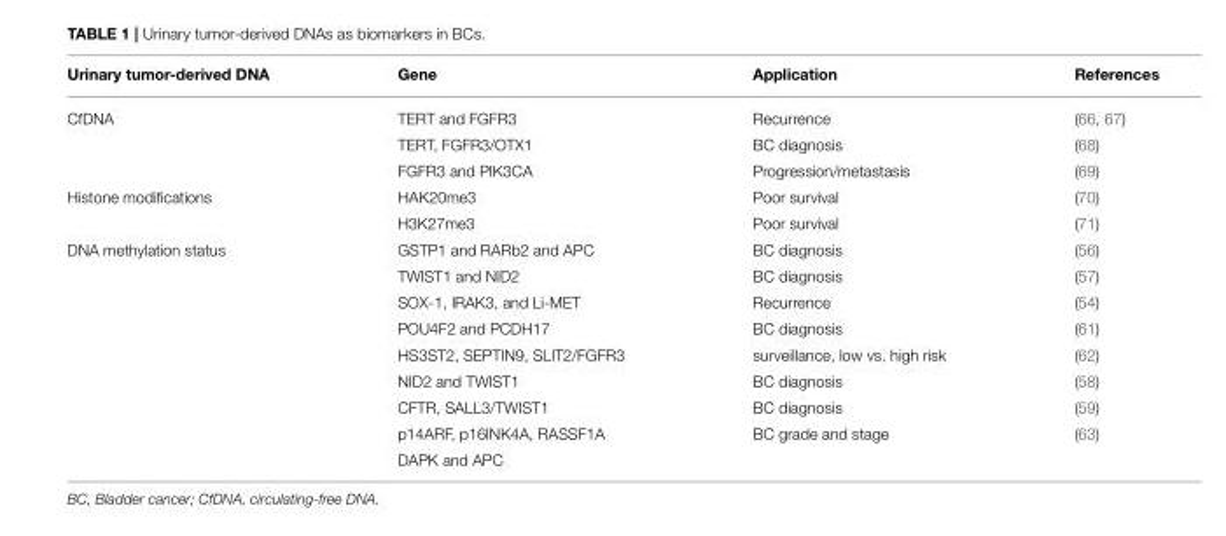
<table><thead><tr><td>Urinary tumor-derived DNA</td><td>Gene</td><td>Application</td><td>References</td></tr></thead><tbody><tr><td rowspan="3">CfDNA</td><td>TERT and FGFR3</td><td>Recurrence</td><td>(66, 67)</td></tr><tr><td>TERT, FGFR3/OTX1</td><td>BC diagnosis</td><td>(68)</td></tr><tr><td>FGFR3 and PIK3CA</td><td>Progression/metastasis</td><td>(69)</td></tr><tr><td rowspan="2">Histone modifications</td><td>HAK20me3</td><td>Poor survival</td><td>(70)</td></tr><tr><td>H3K27me3</td><td>Poor survival</td><td>(71)</td></tr><tr><td rowspan="9">DNA methylation status</td><td>GSTP1 and RARb2 and APC</td><td>BC diagnosis</td><td>(56)</td></tr><tr><td>TWIST1 and NID2</td><td>BC diagnosis</td><td>(57)</td></tr><tr><td>SOX-1, IRAK3, and Li-MET</td><td>Recurrence</td><td>(54)</td></tr><tr><td>POU4F2 and PCDH17</td><td>BC diagnosis</td><td>(61)</td></tr><tr><td>HS3ST2, SEPTIN9, SLIT2/FGFR3</td><td>surveillance, low vs. high risk</td><td>(62)</td></tr><tr><td>NID2 and TWIST1</td><td>BC diagnosis</td><td>(58)</td></tr><tr><td>CFTR, SALL3/TWIST1</td><td>BC diagnosis</td><td>(59)</td></tr><tr><td>p14ARF, p16INK4A, RASSF1A</td><td>BC grade and stage</td><td>(63)</td></tr><tr><td>DAPK and APC</td><td></td><td></td></tr></tbody></table>